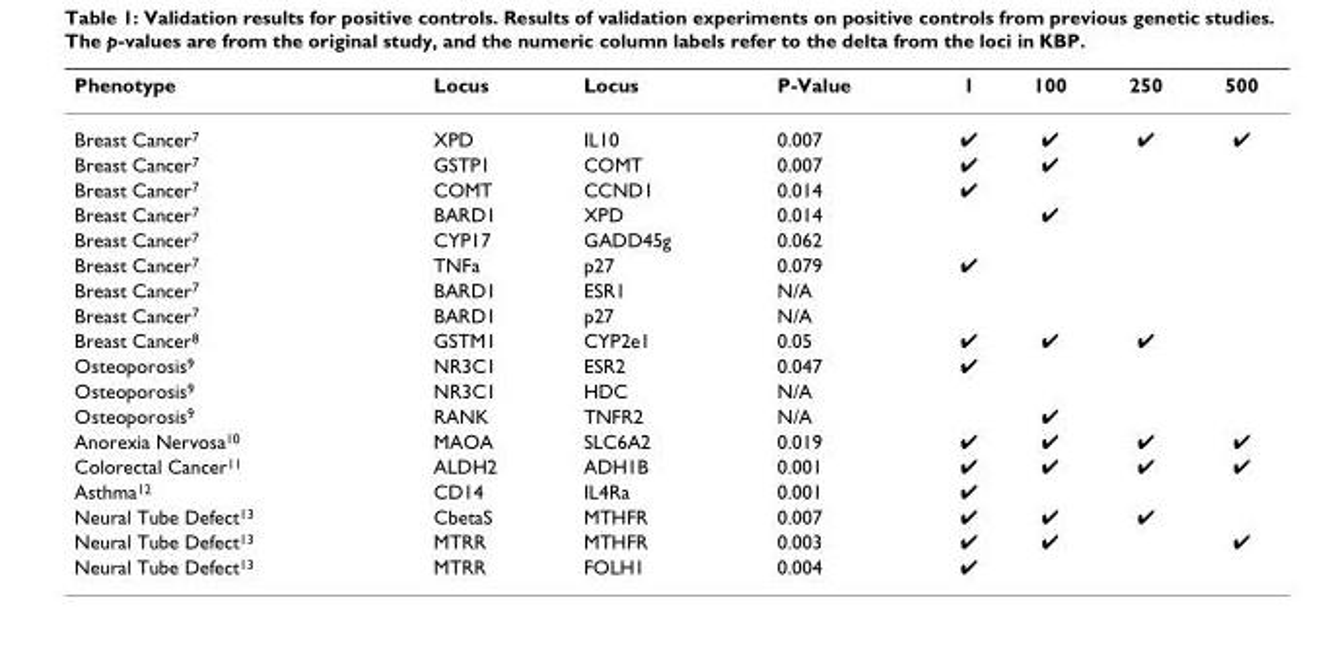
<table><thead><tr><td>Phenotype</td><td>Locus</td><td>Locus</td><td>P-Value</td><td>1</td><td>100</td><td>250</td><td>500</td></tr></thead><tbody><tr><td>Breast Cancer<sup>7</sup></td><td>XPD</td><td>IL10</td><td>0.007</td><td>✔</td><td>✔</td><td>✔</td><td>✔</td></tr><tr><td>Breast Cancer<sup>7</sup></td><td>GSTP1</td><td>COMT</td><td>0.007</td><td>✔</td><td>✔</td><td></td><td></td></tr><tr><td>Breast Cancer<sup>7</sup></td><td>COMT</td><td>CCND1</td><td>0.014</td><td>✔</td><td></td><td></td><td></td></tr><tr><td>Breast Cancer<sup>7</sup></td><td>BARD1</td><td>XPD</td><td>0.014</td><td></td><td>✔</td><td></td><td></td></tr><tr><td>Breast Cancer<sup>7</sup></td><td>CYP17</td><td>GADD45g</td><td>0.062</td><td></td><td></td><td></td><td></td></tr><tr><td>Breast Cancer<sup>7</sup></td><td>TNFa</td><td>p27</td><td>0.079</td><td>✔</td><td></td><td></td><td></td></tr><tr><td>Breast Cancer<sup>7</sup></td><td>BARD1</td><td>ESR1</td><td>N/A</td><td></td><td></td><td></td><td></td></tr><tr><td>Breast Cancer<sup>7</sup></td><td>BARD1</td><td>p27</td><td>N/A</td><td></td><td></td><td></td><td></td></tr><tr><td>Breast Cancer<sup>8</sup></td><td>GSTM1</td><td>CYP2e1</td><td>0.05</td><td>✔</td><td>✔</td><td>✔</td><td></td></tr><tr><td>Osteoporosis<sup>9</sup></td><td>NR3C1</td><td>ESR2</td><td>0.047</td><td>✔</td><td></td><td></td><td></td></tr><tr><td>Osteoporosis<sup>9</sup></td><td>NR3C1</td><td>HDC</td><td>N/A</td><td></td><td></td><td></td><td></td></tr><tr><td>Osteoporosis<sup>9</sup></td><td>RANK</td><td>TNFR2</td><td>N/A</td><td></td><td>✔</td><td></td><td></td></tr><tr><td>Anorexia Nervosa<sup>10</sup></td><td>MAOA</td><td>SLC6A2</td><td>0.019</td><td>✔</td><td>✔</td><td>✔</td><td>✔</td></tr><tr><td>Colorectal Cancer<sup>11</sup></td><td>ALDH2</td><td>ADH1B</td><td>0.001</td><td>✔</td><td>✔</td><td>✔</td><td>✔</td></tr><tr><td>Asthma<sup>12</sup></td><td>CD14</td><td>IL4Ra</td><td>0.001</td><td>✔</td><td></td><td></td><td></td></tr><tr><td>Neural Tube Defect<sup>13</sup></td><td>CbetaS</td><td>MTHFR</td><td>0.007</td><td>✔</td><td>✔</td><td>✔</td><td></td></tr><tr><td>Neural Tube Defect<sup>13</sup></td><td>MTRR</td><td>MTHFR</td><td>0.003</td><td>✔</td><td>✔</td><td></td><td>✔</td></tr><tr><td>Neural Tube Defect<sup>13</sup></td><td>MTRR</td><td>FOLH1</td><td>0.004</td><td>✔</td><td></td><td></td><td></td></tr></tbody></table>